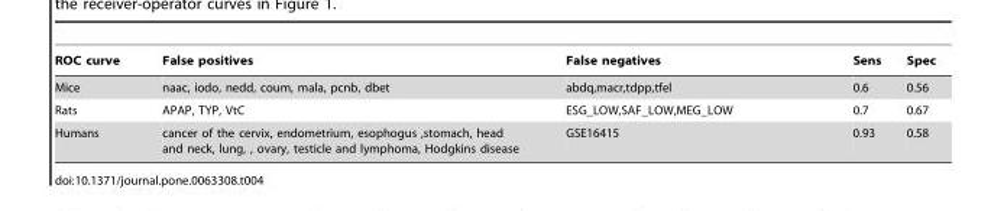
<table><thead><tr><td>ROC curve</td><td>False positives</td><td>False negatives</td><td>Sens</td><td>Spec</td></tr></thead><tbody><tr><td>Mice</td><td>naac, iodo, nedd, coum, mala, pcnb, dbet</td><td>abdq,macr,tdpp,tfel</td><td>0.6</td><td>0.56</td></tr><tr><td>Rats</td><td>APAP, TYP, VtC</td><td>ESG_LOW,SAF_LOW,MEG_LOW</td><td>0.7</td><td>0.67</td></tr><tr><td>Humans</td><td>cancer of the cervix, endometrium, esophogus ,stomach, head and neck, lung, , ovary, testicle and lymphoma, Hodgkins disease</td><td>GSE16415</td><td>0.93</td><td>0.58</td></tr></tbody></table>